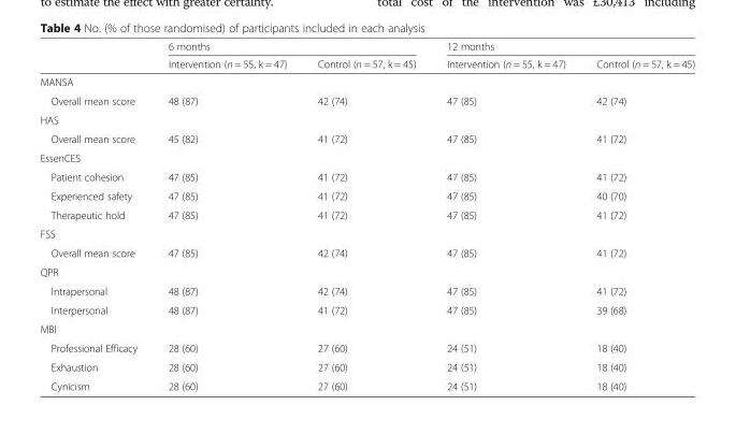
<table><thead><tr><td rowspan="2"></td><td colspan="2">6 months</td><td colspan="2">12 months</td></tr><tr><td>Intervention (n = 55, k = 47)</td><td>Control (n = 57, k = 45)</td><td>Intervention (n = 55, k = 47)</td><td>Control (n = 57, k = 45)</td></tr></thead><tbody><tr><td colspan="5">MANSA</td></tr><tr><td>Overall mean score</td><td>48 (87)</td><td>42 (74)</td><td>47 (85)</td><td>42 (74)</td></tr><tr><td colspan="5">HAS</td></tr><tr><td>Overall mean score</td><td>45 (82)</td><td>41 (72)</td><td>47 (85)</td><td>41 (72)</td></tr><tr><td colspan="5">EssenCES</td></tr><tr><td>Patient cohesion</td><td>47 (85)</td><td>41 (72)</td><td>47 (85)</td><td>41 (72)</td></tr><tr><td>Experienced safety</td><td>47 (85)</td><td>41 (72)</td><td>47 (85)</td><td>40 (70)</td></tr><tr><td>Therapeutic hold</td><td>47 (85)</td><td>41 (72)</td><td>47 (85)</td><td>41 (72)</td></tr><tr><td colspan="5">FSS</td></tr><tr><td>Overall mean score</td><td>47 (85)</td><td>42 (74)</td><td>47 (85)</td><td>41 (72)</td></tr><tr><td colspan="5">QPR</td></tr><tr><td>Intrapersonal</td><td>48 (87)</td><td>42 (74)</td><td>47 (85)</td><td>41 (72)</td></tr><tr><td>Interpersonal</td><td>48 (87)</td><td>41 (72)</td><td>47 (85)</td><td>39 (68)</td></tr><tr><td colspan="5">MBI</td></tr><tr><td>Professional Efficacy</td><td>28 (60)</td><td>27 (60)</td><td>24 (51)</td><td>18 (40)</td></tr><tr><td>Exhaustion</td><td>28 (60)</td><td>27 (60)</td><td>24 (51)</td><td>18 (40)</td></tr><tr><td>Cynicism</td><td>28 (60)</td><td>27 (60)</td><td>24 (51)</td><td>18 (40)</td></tr></tbody></table>